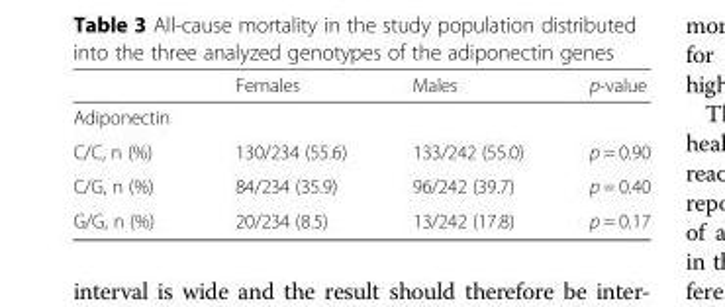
<table><thead><tr><td></td><td>Females</td><td>Males</td><td>p-value</td></tr></thead><tbody><tr><td colspan="4">Adiponectin</td></tr><tr><td>C/C, n (%)</td><td>130/234 (55.6)</td><td>133/242 (55.0)</td><td>p = 0.90</td></tr><tr><td>C/G, n (%)</td><td>84/234 (35.9)</td><td>96/242 (39.7)</td><td>p = 0.40</td></tr><tr><td>G/G, n (%)</td><td>20/234 (8.5)</td><td>13/242 (17.8)</td><td>p = 0.17</td></tr></tbody></table>